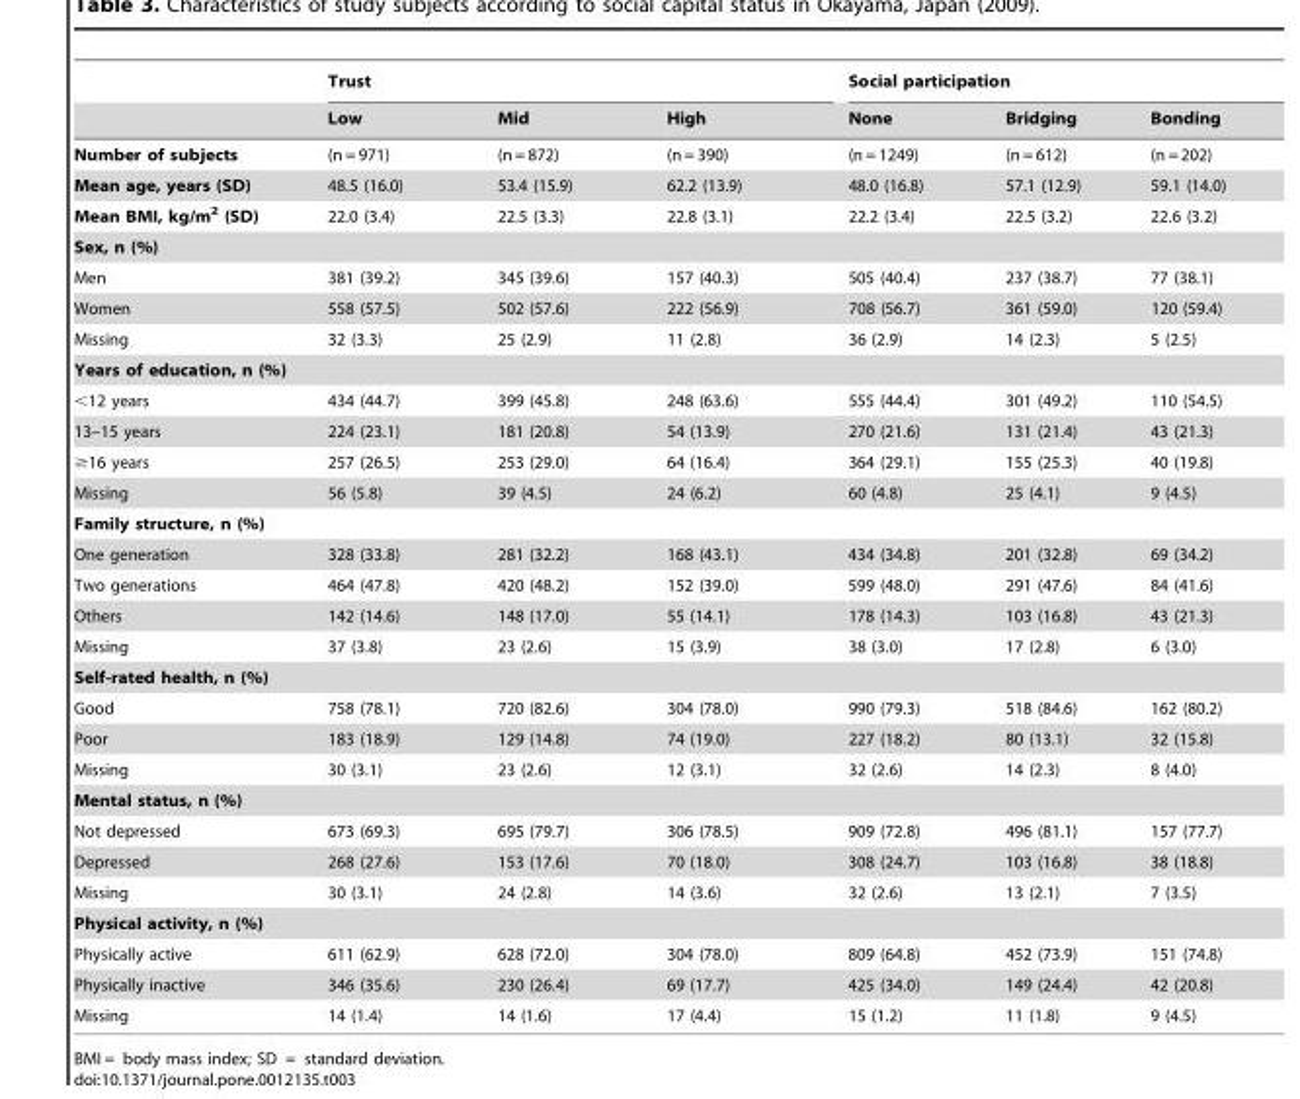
<table><thead><tr><td rowspan="2"></td><td colspan="3">Trust</td><td colspan="3">Social participation</td></tr><tr><td>Low</td><td>Mid</td><td>High</td><td>None</td><td>Bridging</td><td>Bonding</td></tr></thead><tbody><tr><td>Number of subjects</td><td>(n = 971)</td><td>(n = 872)</td><td>(n = 390)</td><td>(n = 1249)</td><td>(n = 612)</td><td>(n = 202)</td></tr><tr><td>Mean age, years (SD)</td><td>48.5 (16.0)</td><td>53.4 (15.9)</td><td>62.2 (13.9)</td><td>48.0 (16.8)</td><td>57.1 (12.9)</td><td>59.1 (14.0)</td></tr><tr><td>Mean BMI, kg/m<sup>2</sup> (SD)</td><td>22.0 (3.4)</td><td>22.5 (3.3)</td><td>22.8 (3.1)</td><td>22.2 (3.4)</td><td>22.5 (3.2)</td><td>22.6 (3.2)</td></tr><tr><td colspan="7">Sex, n (%)</td></tr><tr><td>Men</td><td>381 (39.2)</td><td>345 (39.6)</td><td>157 (40.3)</td><td>505 (40.4)</td><td>237 (38.7)</td><td>77 (38.1)</td></tr><tr><td>Women</td><td>558 (57.5)</td><td>502 (57.6)</td><td>222 (56.9)</td><td>708 (56.7)</td><td>361 (59.0)</td><td>120 (59.4)</td></tr><tr><td>Missing</td><td>32 (3.3)</td><td>25 (2.9)</td><td>11 (2.8)</td><td>36 (2.9)</td><td>14 (2.3)</td><td>5 (2.5)</td></tr><tr><td colspan="7">Years of education, n (%)</td></tr><tr><td>&lt;12 years</td><td>434 (44.7)</td><td>399 (45.8)</td><td>248 (63.6)</td><td>555 (44.4)</td><td>301 (49.2)</td><td>110 (54.5)</td></tr><tr><td>13–15 years</td><td>224 (23.1)</td><td>181 (20.8)</td><td>54 (13.9)</td><td>270 (21.6)</td><td>131 (21.4)</td><td>43 (21.3)</td></tr><tr><td>≥16 years</td><td>257 (26.5)</td><td>253 (29.0)</td><td>64 (16.4)</td><td>364 (29.1)</td><td>155 (25.3)</td><td>40 (19.8)</td></tr><tr><td>Missing</td><td>56 (5.8)</td><td>39 (4.5)</td><td>24 (6.2)</td><td>60 (4.8)</td><td>25 (4.1)</td><td>9 (4.5)</td></tr><tr><td colspan="7">Family structure, n (%)</td></tr><tr><td>One generation</td><td>328 (33.8)</td><td>281 (32.2)</td><td>168 (43.1)</td><td>434 (34.8)</td><td>201 (32.8)</td><td>69 (34.2)</td></tr><tr><td>Two generations</td><td>464 (47.8)</td><td>420 (48.2)</td><td>152 (39.0)</td><td>599 (48.0)</td><td>291 (47.6)</td><td>84 (41.6)</td></tr><tr><td>Others</td><td>142 (14.6)</td><td>148 (17.0)</td><td>55 (14.1)</td><td>178 (14.3)</td><td>103 (16.8)</td><td>43 (21.3)</td></tr><tr><td>Missing</td><td>37 (3.8)</td><td>23 (2.6)</td><td>15 (3.9)</td><td>38 (3.0)</td><td>17 (2.8)</td><td>6 (3.0)</td></tr><tr><td colspan="7">Self-rated health, n (%)</td></tr><tr><td>Good</td><td>758 (78.1)</td><td>720 (82.6)</td><td>304 (78.0)</td><td>990 (79.3)</td><td>518 (84.6)</td><td>162 (80.2)</td></tr><tr><td>Poor</td><td>183 (18.9)</td><td>129 (14.8)</td><td>74 (19.0)</td><td>227 (18.2)</td><td>80 (13.1)</td><td>32 (15.8)</td></tr><tr><td>Missing</td><td>30 (3.1)</td><td>23 (2.6)</td><td>12 (3.1)</td><td>32 (2.6)</td><td>14 (2.3)</td><td>8 (4.0)</td></tr><tr><td colspan="7">Mental status, n (%)</td></tr><tr><td>Not depressed</td><td>673 (69.3)</td><td>695 (79.7)</td><td>306 (78.5)</td><td>909 (72.8)</td><td>496 (81.1)</td><td>157 (77.7)</td></tr><tr><td>Depressed</td><td>268 (27.6)</td><td>153 (17.6)</td><td>70 (18.0)</td><td>308 (24.7)</td><td>103 (16.8)</td><td>38 (18.8)</td></tr><tr><td>Missing</td><td>30 (3.1)</td><td>24 (2.8)</td><td>14 (3.6)</td><td>32 (2.6)</td><td>13 (2.1)</td><td>7 (3.5)</td></tr><tr><td colspan="7">Physical activity, n (%)</td></tr><tr><td>Physically active</td><td>611 (62.9)</td><td>628 (72.0)</td><td>304 (78.0)</td><td>809 (64.8)</td><td>452 (73.9)</td><td>151 (74.8)</td></tr><tr><td>Physically inactive</td><td>346 (35.6)</td><td>230 (26.4)</td><td>69 (17.7)</td><td>425 (34.0)</td><td>149 (24.4)</td><td>42 (20.8)</td></tr><tr><td>Missing</td><td>14 (1.4)</td><td>14 (1.6)</td><td>17 (4.4)</td><td>15 (1.2)</td><td>11 (1.8)</td><td>9 (4.5)</td></tr></tbody></table>